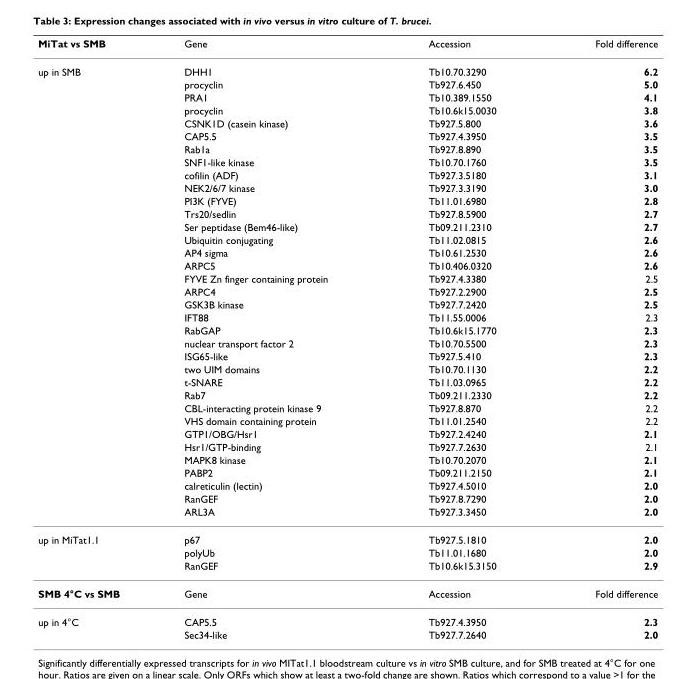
<table><thead><tr><td>MiTat vs SMB</td><td>Gene</td><td>Accession</td><td>Fold difference</td></tr></thead><tbody><tr><td rowspan="35">up in SMB</td><td>DHH1</td><td>Tb10.70.3290</td><td>6.2</td></tr><tr><td>procyclin</td><td>Tb927.6.450</td><td>5.0</td></tr><tr><td>PRA1</td><td>Tb10.389.1550</td><td>4.1</td></tr><tr><td>procyclin</td><td>Tb10.6k15.0030</td><td>3.8</td></tr><tr><td>CSNK1D (casein kinase)</td><td>Tb927.5.800</td><td>3.6</td></tr><tr><td>CAP5.5</td><td>Tb927.4.3950</td><td>3.5</td></tr><tr><td>Rab1a</td><td>Tb927.8.890</td><td>3.5</td></tr><tr><td>SNF1-like kinase</td><td>Tb10.70.1760</td><td>3.5</td></tr><tr><td>cofilin (ADF)</td><td>Tb927.3.5180</td><td>3.1</td></tr><tr><td>NEK2/6/7 kinase</td><td>Tb927.3.3190</td><td>3.0</td></tr><tr><td>PI3K (FYVE)</td><td>Tb11.01.6980</td><td>2.8</td></tr><tr><td>Trs20/sedlin</td><td>Tb927.8.5900</td><td>2.7</td></tr><tr><td>Ser peptidase (Bem46-like)</td><td>Tb09.211.2310</td><td>2.7</td></tr><tr><td>Ubiquitin conjugating</td><td>Tb11.02.0815</td><td>2.6</td></tr><tr><td>AP4 sigma</td><td>Tb10.61.2530</td><td>2.6</td></tr><tr><td>ARPC5</td><td>Tb10.406.0320</td><td>2.6</td></tr><tr><td>FYVE Zn finger containing protein</td><td>Tb927.4.3380</td><td>2.5</td></tr><tr><td>ARPC4</td><td>Tb927.2.2900</td><td>2.5</td></tr><tr><td>GSK3B kinase</td><td>Tb927.7.2420</td><td>2.5</td></tr><tr><td>IFT88</td><td>Tb11.55.0006</td><td>2.3</td></tr><tr><td>RabGAP</td><td>Tb10.6k15.1770</td><td>2.3</td></tr><tr><td>nuclear transport factor 2</td><td>Tb10.70.5500</td><td>2.3</td></tr><tr><td>ISG65-like</td><td>Tb927.5.410</td><td>2.3</td></tr><tr><td>two UIM domains</td><td>Tb10.70.1130</td><td>2.2</td></tr><tr><td>t-SNARE</td><td>Tb11.03.0965</td><td>2.2</td></tr><tr><td>Rab7</td><td>Tb09.211.2330</td><td>2.2</td></tr><tr><td>CBL-interacting protein kinase 9</td><td>Tb927.8.870</td><td>2.2</td></tr><tr><td>VHS domain containing protein</td><td>Tb11.01.2540</td><td>2.2</td></tr><tr><td>GTP1/OBG/Hsr1</td><td>Tb927.2.4240</td><td>2.1</td></tr><tr><td>Hsr1/GTP-binding</td><td>Tb927.7.2630</td><td>2.1</td></tr><tr><td>MAPK8 kinase</td><td>Tb10.70.2070</td><td>2.1</td></tr><tr><td>PABP2</td><td>Tb09.211.2150</td><td>2.1</td></tr><tr><td>calreticulin (lectin)</td><td>Tb927.4.5010</td><td>2.0</td></tr><tr><td>RanGEF</td><td>Tb927.8.7290</td><td>2.0</td></tr><tr><td>ARL3A</td><td>Tb927.3.3450</td><td>2.0</td></tr><tr><td rowspan="3">up in MiTat1.1</td><td>p67</td><td>Tb927.5.1810</td><td>2.0</td></tr><tr><td>polyUb</td><td>Tb11.01.1680</td><td>2.0</td></tr><tr><td>RanGEF</td><td>Tb10.6k15.3150</td><td>2.9</td></tr><tr><td>SMB 4°C vs SMB</td><td>Gene</td><td>Accession</td><td>Fold difference</td></tr><tr><td rowspan="2">up in 4°C</td><td>CAP5.5</td><td>Tb927.4.3950</td><td>2.3</td></tr><tr><td>Sec34-like</td><td>Tb927.7.2640</td><td>2.0</td></tr></tbody></table>